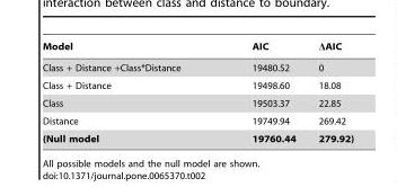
<table><thead><tr><td>Model</td><td>AIC</td><td>ΔAIC</td></tr></thead><tbody><tr><td>Class + Distance +Class*Distance</td><td>19480.52</td><td>0</td></tr><tr><td>Class + Distance</td><td>19498.60</td><td>18.08</td></tr><tr><td>Class</td><td>19503.37</td><td>22.85</td></tr><tr><td>Distance</td><td>19749.94</td><td>269.42</td></tr><tr><td>(Null model</td><td>19760.44</td><td>279.92)</td></tr></tbody></table>